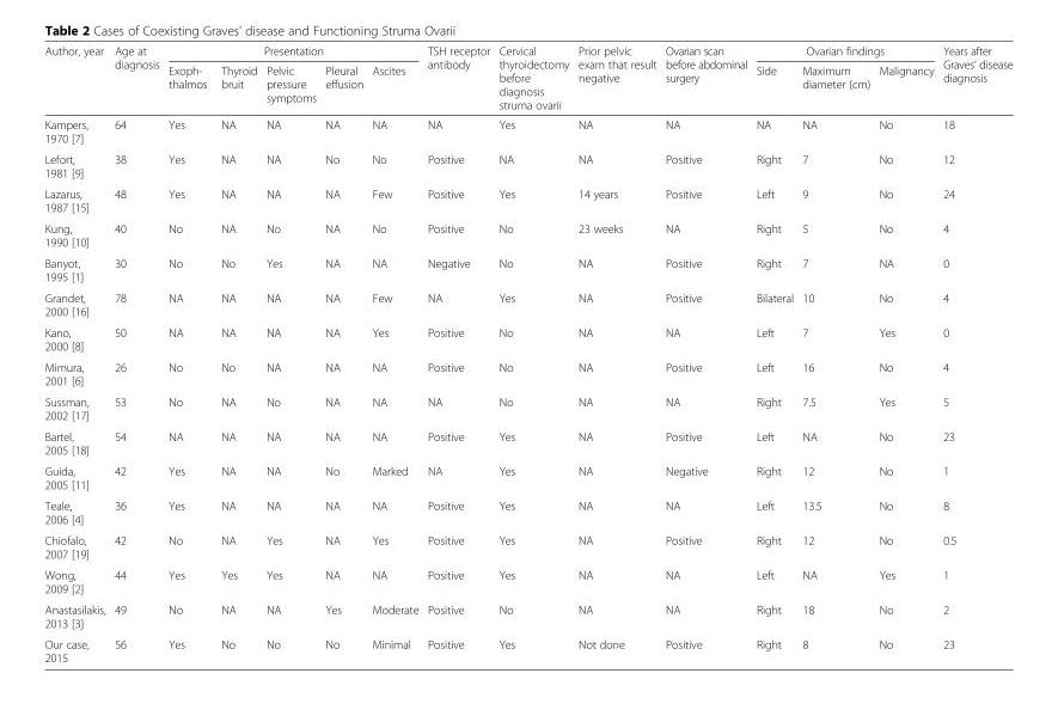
<table><thead><tr><td rowspan="2">Author, year</td><td rowspan="2">Age at diagnosis</td><td colspan="5">Presentation</td><td rowspan="2">TSH receptor antibody</td><td rowspan="2">Cervical thyroidectomy before diagnosis struma ovarii</td><td rowspan="2">Prior pelvic exam that result negative</td><td rowspan="2">Ovarian scan before abdominal surgery</td><td colspan="3">Ovarian findings</td><td rowspan="2">Years after Graves’ disease diagnosis</td></tr><tr><td>Exoph- thalmos</td><td>Thyroid bruit</td><td>Pelvic pressure symptoms</td><td>Pleural effusion</td><td>Ascites</td><td>Side</td><td>Maximum diameter (cm)</td><td>Malignancy</td></tr></thead><tbody><tr><td>Kampers, 1970 [7]</td><td>64</td><td>Yes</td><td>NA</td><td>NA</td><td>NA</td><td>NA</td><td>NA</td><td>Yes</td><td>NA</td><td>NA</td><td>NA</td><td>NA</td><td>No</td><td>18</td></tr><tr><td>Lefort, 1981 [9]</td><td>38</td><td>Yes</td><td>NA</td><td>NA</td><td>No</td><td>No</td><td>Positive</td><td>NA</td><td>NA</td><td>Positive</td><td>Right</td><td>7</td><td>No</td><td>12</td></tr><tr><td>Lazarus, 1987 [15]</td><td>48</td><td>Yes</td><td>NA</td><td>NA</td><td>NA</td><td>Few</td><td>Positive</td><td>Yes</td><td>14 years</td><td>Positive</td><td>Left</td><td>9</td><td>No</td><td>24</td></tr><tr><td>Kung, 1990 [10]</td><td>40</td><td>No</td><td>NA</td><td>No</td><td>NA</td><td>No</td><td>Positive</td><td>No</td><td>23 weeks</td><td>NA</td><td>Right</td><td>5</td><td>No</td><td>4</td></tr><tr><td>Banyot, 1995 [1]</td><td>30</td><td>No</td><td>No</td><td>Yes</td><td>NA</td><td>NA</td><td>Negative</td><td>No</td><td>NA</td><td>Positive</td><td>Right</td><td>7</td><td>NA</td><td>0</td></tr><tr><td>Grandet, 2000 [16]</td><td>78</td><td>NA</td><td>NA</td><td>NA</td><td>NA</td><td>Few</td><td>NA</td><td>Yes</td><td>NA</td><td>Positive</td><td>Bilateral</td><td>10</td><td>No</td><td>4</td></tr><tr><td>Kano, 2000 [8]</td><td>50</td><td>NA</td><td>NA</td><td>NA</td><td>NA</td><td>Yes</td><td>Positive</td><td>No</td><td>NA</td><td>NA</td><td>Left</td><td>7</td><td>Yes</td><td>0</td></tr><tr><td>Mimura, 2001 [6]</td><td>26</td><td>No</td><td>No</td><td>NA</td><td>NA</td><td>NA</td><td>Positive</td><td>No</td><td>NA</td><td>Positive</td><td>Left</td><td>16</td><td>No</td><td>4</td></tr><tr><td>Sussman, 2002 [17]</td><td>53</td><td>No</td><td>NA</td><td>No</td><td>NA</td><td>NA</td><td>NA</td><td>No</td><td>NA</td><td>NA</td><td>Right</td><td>7.5</td><td>Yes</td><td>5</td></tr><tr><td>Bartel, 2005 [18]</td><td>54</td><td>NA</td><td>NA</td><td>NA</td><td>NA</td><td>NA</td><td>Positive</td><td>Yes</td><td>NA</td><td>Positive</td><td>Left</td><td>NA</td><td>No</td><td>23</td></tr><tr><td>Guida, 2005 [11]</td><td>42</td><td>Yes</td><td>NA</td><td>NA</td><td>No</td><td>Marked</td><td>NA</td><td>Yes</td><td>NA</td><td>Negative</td><td>Right</td><td>12</td><td>No</td><td>1</td></tr><tr><td>Teale, 2006 [4]</td><td>36</td><td>Yes</td><td>NA</td><td>NA</td><td>NA</td><td>NA</td><td>Positive</td><td>Yes</td><td>NA</td><td>NA</td><td>Left</td><td>13.5</td><td>No</td><td>8</td></tr><tr><td>Chiofalo, 2007 [19]</td><td>42</td><td>No</td><td>NA</td><td>Yes</td><td>NA</td><td>Yes</td><td>Positive</td><td>Yes</td><td>NA</td><td>Positive</td><td>Right</td><td>12</td><td>No</td><td>0.5</td></tr><tr><td>Wong, 2009 [2]</td><td>44</td><td>Yes</td><td>Yes</td><td>Yes</td><td>NA</td><td>NA</td><td>Positive</td><td>Yes</td><td>NA</td><td>NA</td><td>Left</td><td>NA</td><td>Yes</td><td>1</td></tr><tr><td>Anastasilakis, 2013 [3]</td><td>49</td><td>No</td><td>NA</td><td>NA</td><td>Yes</td><td>Moderate</td><td>Positive</td><td>No</td><td>NA</td><td>NA</td><td>Right</td><td>18</td><td>No</td><td>2</td></tr><tr><td>Our case, 2015</td><td>56</td><td>Yes</td><td>No</td><td>No</td><td>No</td><td>Minimal</td><td>Positive</td><td>Yes</td><td>Not done</td><td>Positive</td><td>Right</td><td>8</td><td>No</td><td>23</td></tr></tbody></table>